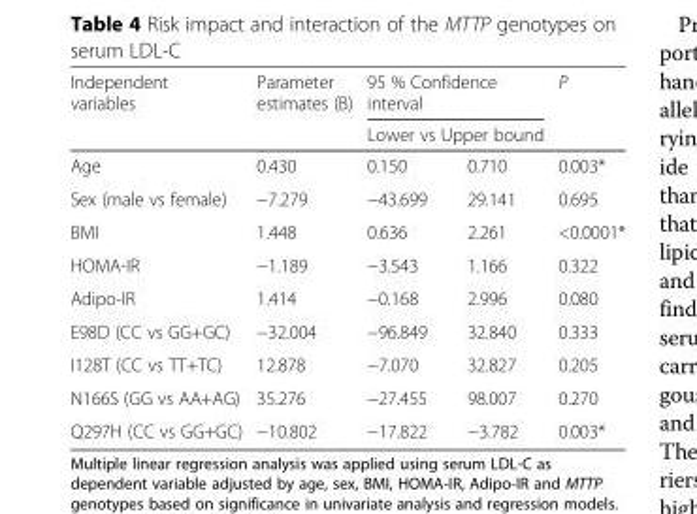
<table><thead><tr><td rowspan="3">Independent variables Age</td><td rowspan="3">Parameter estimates (B) 0.430</td><td rowspan="2" colspan="2">95 % Confidence interval Lower vs Upper bound</td><td rowspan="3">P 0.003*</td></tr><tr></tr><tr><td>0.150</td><td>0.710</td></tr></thead><tbody><tr><td>Sex (male vs female)</td><td>−7.279</td><td>−43.699</td><td>29.141</td><td>0.695</td></tr><tr><td>BMI</td><td>1.448</td><td>0.636</td><td>2.261</td><td>&lt;0.0001*</td></tr><tr><td>HOMA-IR</td><td>−1.189</td><td>−3.543</td><td>1.166</td><td>0.322</td></tr><tr><td>Adipo-IR</td><td>1.414</td><td>−0.168</td><td>2.996</td><td>0.080</td></tr><tr><td>E98D (CC vs GG+GC)</td><td>−32.004</td><td>−96.849</td><td>32.840</td><td>0.333</td></tr><tr><td>I128T (CC vs TT+TC)</td><td>12.878</td><td>−7.070</td><td>32.827</td><td>0.205</td></tr><tr><td>N166S (GG vs AA+AG)</td><td>35.276</td><td>−27.455</td><td>98.007</td><td>0.270</td></tr><tr><td>Q297H (CC vs GG+GC)</td><td>−10.802</td><td>−17.822</td><td>−3.782</td><td>0.003*</td></tr></tbody></table>